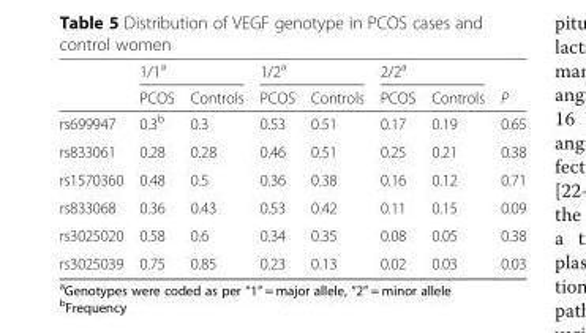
<table><thead><tr><td rowspan="2"></td><td colspan="2">1/1<sup>a</sup></td><td colspan="2">1/2<sup>a</sup></td><td colspan="2">2/2<sup>a</sup></td><td rowspan="2">P</td></tr><tr><td>PCOS</td><td>Controls</td><td>PCOS</td><td>Controls</td><td>PCOS</td><td>Controls</td></tr></thead><tbody><tr><td>rs699947</td><td>0.3<sup>b</sup></td><td>0.3</td><td>0.53</td><td>0.51</td><td>0.17</td><td>0.19</td><td>0.65</td></tr><tr><td>rs833061</td><td>0.28</td><td>0.28</td><td>0.46</td><td>0.51</td><td>0.25</td><td>0.21</td><td>0.38</td></tr><tr><td>rs1570360</td><td>0.48</td><td>0.5</td><td>0.36</td><td>0.38</td><td>0.16</td><td>0.12</td><td>0.71</td></tr><tr><td>rs833068</td><td>0.36</td><td>0.43</td><td>0.53</td><td>0.42</td><td>0.11</td><td>0.15</td><td>0.09</td></tr><tr><td>rs3025020</td><td>0.58</td><td>0.6</td><td>0.34</td><td>0.35</td><td>0.08</td><td>0.05</td><td>0.38</td></tr><tr><td>rs3025039</td><td>0.75</td><td>0.85</td><td>0.23</td><td>0.13</td><td>0.02</td><td>0.03</td><td>0.03</td></tr></tbody></table>